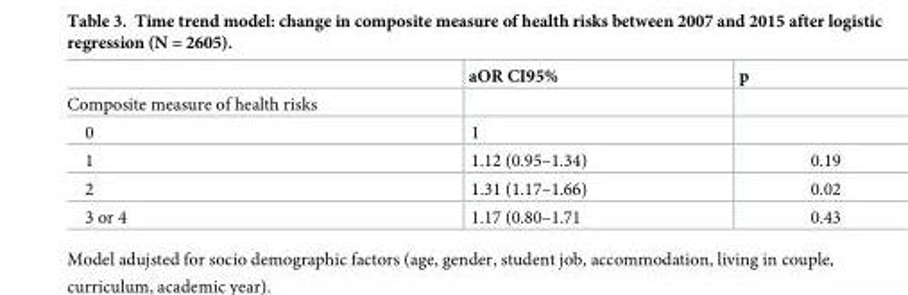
<table><thead><tr><td></td><td>aOR CI95%</td><td>p</td></tr></thead><tbody><tr><td colspan="3">Composite measure of health risks</td></tr><tr><td>0</td><td>1</td><td></td></tr><tr><td>1</td><td>1.12 (0.95–1.34)</td><td>0.19</td></tr><tr><td>2</td><td>1.31 (1.17–1.66)</td><td>0.02</td></tr><tr><td>3 or 4</td><td>1.17 (0.80–1.71</td><td>0.43</td></tr></tbody></table>